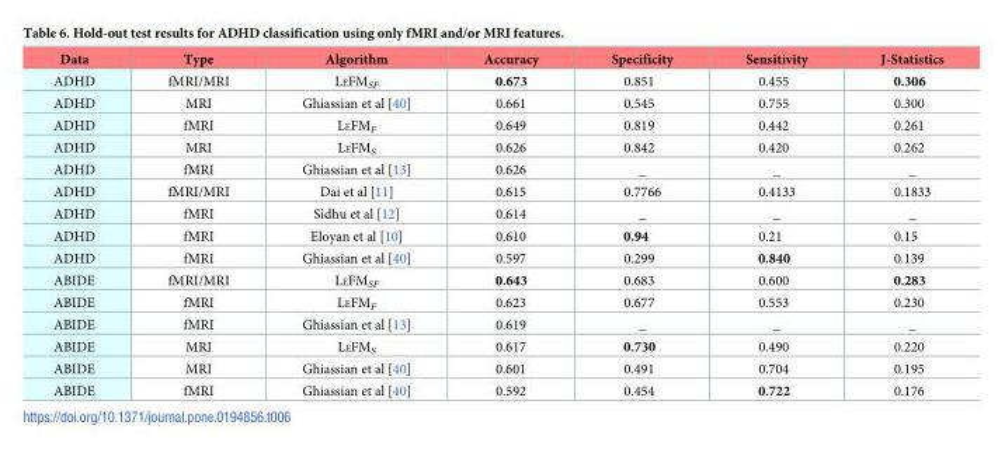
<table><thead><tr><td>Data</td><td>Type</td><td>Algorithm</td><td>Accuracy</td><td>Specificity</td><td>Sensitivity</td><td>J-Statistics</td></tr></thead><tbody><tr><td>ADHD</td><td>fMRI/MRI</td><td>LEFM<sub>SF</sub></td><td>0.673</td><td>0.851</td><td>0.455</td><td>0.306</td></tr><tr><td>ADHD</td><td>MRI</td><td>Ghiassian et al [40]</td><td>0.661</td><td>0.545</td><td>0.755</td><td>0.300</td></tr><tr><td>ADHD</td><td>fMRI</td><td>LEFM<sub>F</sub></td><td>0.649</td><td>0.819</td><td>0.442</td><td>0.261</td></tr><tr><td>ADHD</td><td>MRI</td><td>LEFM<sub>S</sub></td><td>0.626</td><td>0.842</td><td>0.420</td><td>0.262</td></tr><tr><td>ADHD</td><td>fMRI</td><td>Ghiassian et al [13]</td><td>0.626</td><td>_</td><td>_</td><td>_</td></tr><tr><td>ADHD</td><td>fMRI/MRI</td><td>Dai et al [11]</td><td>0.615</td><td>0.7766</td><td>0.4133</td><td>0.1833</td></tr><tr><td>ADHD</td><td>fMRI</td><td>Sidhu et al [12]</td><td>0.614</td><td>_</td><td>_</td><td>_</td></tr><tr><td>ADHD</td><td>fMRI</td><td>Eloyan et al [10]</td><td>0.610</td><td>0.94</td><td>0.21</td><td>0.15</td></tr><tr><td>ADHD</td><td>fMRI</td><td>Ghiassian et al [40]</td><td>0.597</td><td>0.299</td><td>0.840</td><td>0.139</td></tr><tr><td>ABIDE</td><td>fMRI/MRI</td><td>LEFM<sub>SF</sub></td><td>0.643</td><td>0.683</td><td>0.600</td><td>0.283</td></tr><tr><td>ABIDE</td><td>fMRI</td><td>LEFM<sub>F</sub></td><td>0.623</td><td>0.677</td><td>0.553</td><td>0.230</td></tr><tr><td>ABIDE</td><td>fMRI</td><td>Ghiassian et al [13]</td><td>0.619</td><td>_</td><td>_</td><td>_</td></tr><tr><td>ABIDE</td><td>MRI</td><td>LEFM<sub>S</sub></td><td>0.617</td><td>0.730</td><td>0.490</td><td>0.220</td></tr><tr><td>ABIDE</td><td>MRI</td><td>Ghiassian et al [40]</td><td>0.601</td><td>0.491</td><td>0.704</td><td>0.195</td></tr><tr><td>ABIDE</td><td>fMRI</td><td>Ghiassian et al [40]</td><td>0.592</td><td>0.454</td><td>0.722</td><td>0.176</td></tr></tbody></table>